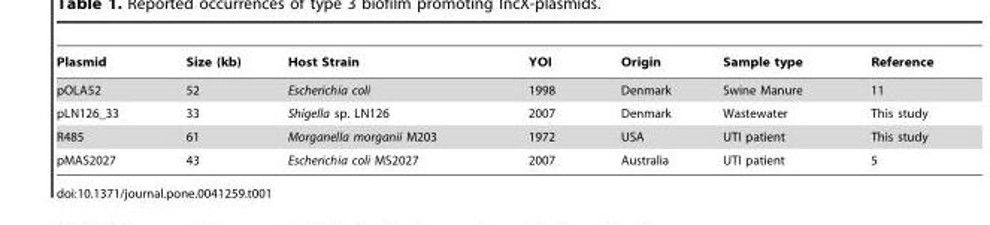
<table><thead><tr><td>Plasmid</td><td>Size (kb)</td><td>Host Strain</td><td>YOI</td><td>Origin</td><td>Sample type</td><td>Reference</td></tr></thead><tbody><tr><td>pOLA52</td><td>52</td><td>Escherichia coli</td><td>1998</td><td>Denmark</td><td>Swine Manure</td><td>11</td></tr><tr><td>pLN126_33</td><td>33</td><td>Shigella sp. LN126</td><td>2007</td><td>Denmark</td><td>Wastewater</td><td>This study</td></tr><tr><td>R485</td><td>61</td><td>Morganella morganii M203</td><td>1972</td><td>USA</td><td>UTI patient</td><td>This study</td></tr><tr><td>pMAS2027</td><td>43</td><td>Escherichia coli MS2027</td><td>2007</td><td>Australia</td><td>UTI patient</td><td>5</td></tr></tbody></table>